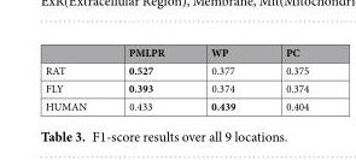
<table><thead><tr><td></td><td>PMLPR</td><td>WP</td><td>PC</td></tr></thead><tbody><tr><td>RAT</td><td>0.527</td><td>0.377</td><td>0.375</td></tr><tr><td>FLY</td><td>0.393</td><td>0.374</td><td>0.374</td></tr><tr><td>HUMAN</td><td>0.433</td><td>0.439</td><td>0.404</td></tr></tbody></table>